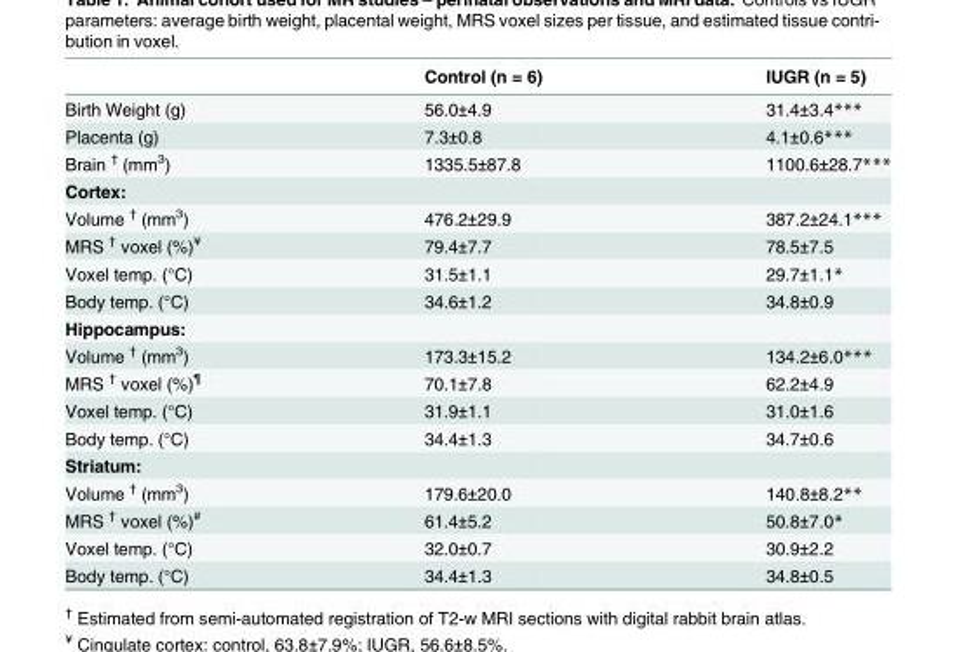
<table><thead><tr><td></td><td>Control (n = 6)</td><td>IUGR (n = 5)</td></tr></thead><tbody><tr><td>Birth Weight (g)</td><td>56.0±4.9</td><td>31.4±3.4***</td></tr><tr><td>Placenta (g)</td><td>7.3±0.8</td><td>4.1±0.6***</td></tr><tr><td>Brain <sup>†</sup> (mm<sup>3</sup>)</td><td>1335.5±87.8</td><td>1100.6±28.7***</td></tr><tr><td colspan="3">Cortex:</td></tr><tr><td>Volume <sup>†</sup> (mm<sup>3</sup>)</td><td>476.2±29.9</td><td>387.2±24.1***</td></tr><tr><td>MRS <sup>†</sup> voxel (%)<sup>¥</sup></td><td>79.4±7.7</td><td>78.5±7.5</td></tr><tr><td>Voxel temp. (°C)</td><td>31.5±1.1</td><td>29.7±1.1*</td></tr><tr><td>Body temp. (°C)</td><td>34.6±1.2</td><td>34.8±0.9</td></tr><tr><td colspan="3">Hippocampus:</td></tr><tr><td>Volume <sup>†</sup> (mm<sup>3</sup>)</td><td>173.3±15.2</td><td>134.2±6.0***</td></tr><tr><td>MRS <sup>†</sup> voxel (%)<sup>¶</sup></td><td>70.1±7.8</td><td>62.2±4.9</td></tr><tr><td>Voxel temp. (°C)</td><td>31.9±1.1</td><td>31.0±1.6</td></tr><tr><td>Body temp. (°C)</td><td>34.4±1.3</td><td>34.7±0.6</td></tr><tr><td colspan="3">Striatum:</td></tr><tr><td>Volume <sup>†</sup> (mm<sup>3</sup>)</td><td>179.6±20.0</td><td>140.8±8.2**</td></tr><tr><td>MRS <sup>†</sup> voxel (%)<sup>#</sup></td><td>61.4±5.2</td><td>50.8±7.0*</td></tr><tr><td>Voxel temp. (°C)</td><td>32.0±0.7</td><td>30.9±2.2</td></tr><tr><td>Body temp. (°C)</td><td>34.4±1.3</td><td>34.8±0.5</td></tr></tbody></table>